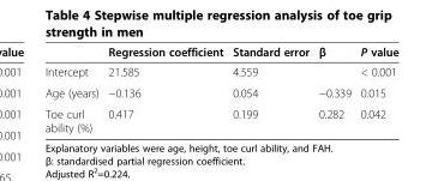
<table><thead><tr><td></td><td>Regression coefficient</td><td>Standard error</td><td>β</td><td>P value</td></tr></thead><tbody><tr><td>Intercept</td><td>21.585</td><td>4.559</td><td></td><td>&lt; 0.001</td></tr><tr><td>Age (years)</td><td>−0.136</td><td>0.054</td><td>−0.339</td><td>0.015</td></tr><tr><td>Toe curl ability (%)</td><td>0.417</td><td>0.199</td><td>0.282</td><td>0.042</td></tr></tbody></table>